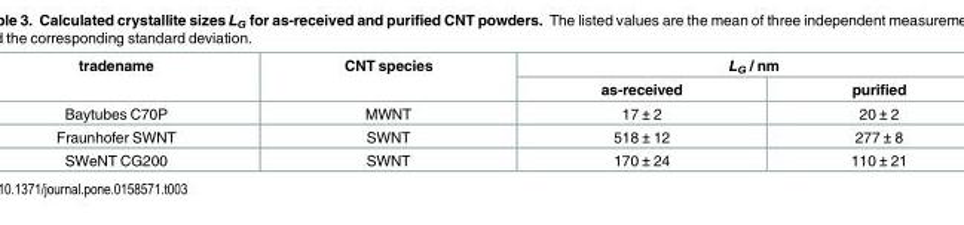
<table><thead><tr><td rowspan="2">tradename</td><td rowspan="2">CNT species</td><td colspan="2">L<sub>G</sub> / nm</td></tr><tr><td>as-received</td><td>purified</td></tr></thead><tbody><tr><td>Baytubes C70P</td><td>MWNT</td><td>17 ± 2</td><td>20 ± 2</td></tr><tr><td>Fraunhofer SWNT</td><td>SWNT</td><td>518 ± 12</td><td>277 ± 8</td></tr><tr><td>SWeNT CG200</td><td>SWNT</td><td>170 ± 24</td><td>110 ± 21</td></tr></tbody></table>